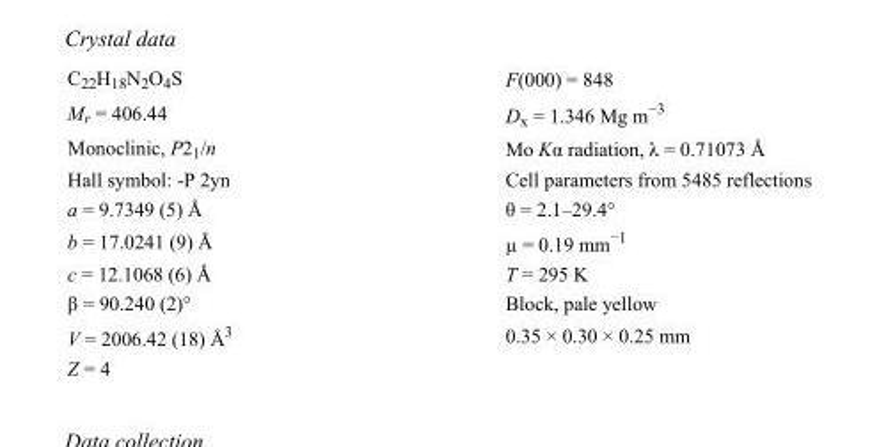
<table><tbody><tr><td>C<sub>22</sub>H<sub>18</sub>N<sub>2</sub>O<sub>4</sub>S</td><td>F(000) = 848</td></tr><tr><td>M<sub>r</sub> = 406.44</td><td>D<sub>x</sub> = 1.346 Mg m<sup>−3</sup></td></tr><tr><td>Monoclinic, P2<sub>1</sub>/n</td><td>Mo Kα radiation, λ = 0.71073 Å</td></tr><tr><td>Hall symbol: -P 2yn</td><td>Cell parameters from 5485 reflections</td></tr><tr><td>a = 9.7349 (5) Å</td><td>θ = 2.1–29.4°</td></tr><tr><td>b = 17.0241 (9) Å</td><td>µ = 0.19 mm<sup>−1</sup></td></tr><tr><td>c = 12.1068 (6) Å</td><td>T = 295 K</td></tr><tr><td>β = 90.240 (2)°</td><td>Block, pale yellow</td></tr><tr><td>V = 2006.42 (18) Å<sup>3</sup></td><td>0.35 × 0.30 × 0.25 mm</td></tr><tr><td>Z = 4</td><td></td></tr></tbody></table>